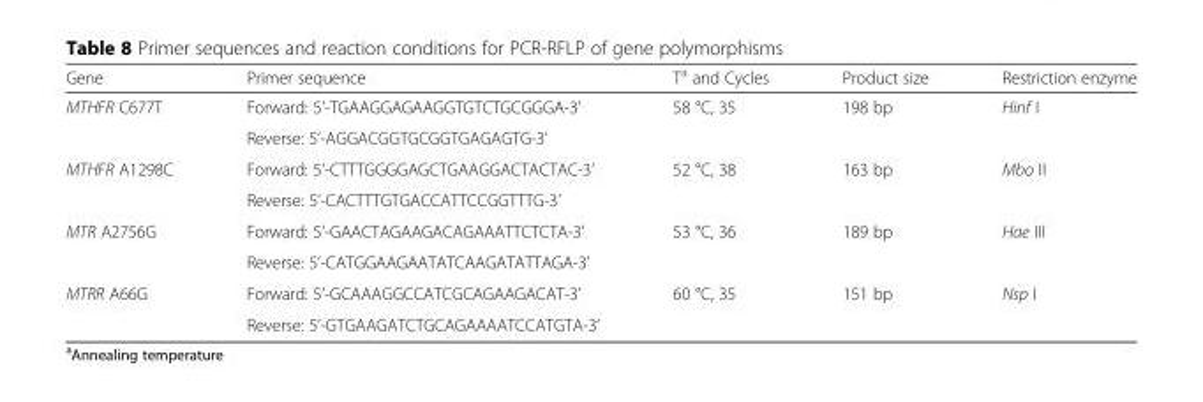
<table><thead><tr><td>Gene</td><td>Primer sequence</td><td>T<sup>a</sup> and Cycles</td><td>Product size</td><td>Restriction enzyme</td></tr></thead><tbody><tr><td rowspan="2">MTHFR C677T</td><td>Forward: 5’-TGAAGGAGAAGGTGTCTGCGGGA-3’</td><td rowspan="2">58 °C, 35</td><td rowspan="2">198 bp</td><td rowspan="2">Hinf I</td></tr><tr><td>Reverse: 5’-AGGACGGTGCGGTGAGAGTG-3’</td></tr><tr><td rowspan="2">MTHFR A1298C</td><td>Forward: 5’-CTTTGGGGAGCTGAAGGACTACTAC-3’</td><td rowspan="2">52 °C, 38</td><td rowspan="2">163 bp</td><td rowspan="2">Mbo II</td></tr><tr><td>Reverse: 5’-CACTTTGTGACCATTCCGGTTTG-3’</td></tr><tr><td rowspan="2">MTR A2756G</td><td>Forward: 5’-GAACTAGAAGACAGAAATTCTCTA-3’</td><td rowspan="2">53 °C, 36</td><td rowspan="2">189 bp</td><td rowspan="2">Hae III</td></tr><tr><td>Reverse: 5’-CATGGAAGAATATCAAGATATTAGA-3’</td></tr><tr><td rowspan="2">MTRR A66G</td><td>Forward: 5’-GCAAAGGCCATCGCAGAAGACAT-3’</td><td rowspan="2">60 °C, 35</td><td rowspan="2">151 bp</td><td rowspan="2">Nsp I</td></tr><tr><td>Reverse: 5’-GTGAAGATCTGCAGAAAATCCATGTA-3’</td></tr></tbody></table>